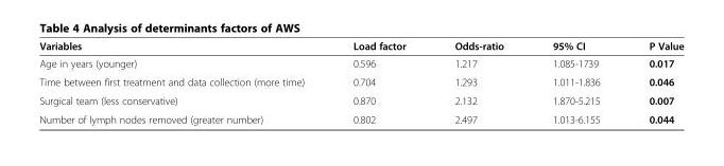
<table><thead><tr><td>Variables</td><td>Load factor</td><td>Odds-ratio</td><td>95% CI</td><td>P Value</td></tr></thead><tbody><tr><td>Age in years (younger)</td><td>0.596</td><td>1.217</td><td>1.085-1739</td><td>0.017</td></tr><tr><td>Time between first treatment and data collection (more time)</td><td>0.704</td><td>1.293</td><td>1.011-1.836</td><td>0.046</td></tr><tr><td>Surgical team (less conservative)</td><td>0.870</td><td>2.132</td><td>1.870-5.215</td><td>0.007</td></tr><tr><td>Number of lymph nodes removed (greater number)</td><td>0.802</td><td>2.497</td><td>1.013-6.155</td><td>0.044</td></tr></tbody></table>